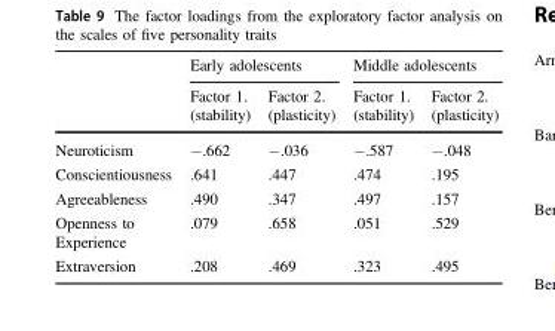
<table><thead><tr><td rowspan="2"></td><td colspan="2">Early adolescents</td><td colspan="2">Middle adolescents</td></tr><tr><td>Factor 1. (stability)</td><td>Factor 2. (plasticity)</td><td>Factor 1. (stability)</td><td>Factor 2. (plasticity)</td></tr></thead><tbody><tr><td>Neuroticism</td><td>−.662</td><td>−.036</td><td>−.587</td><td>−.048</td></tr><tr><td>Conscientiousness</td><td>.641</td><td>.447</td><td>.474</td><td>.195</td></tr><tr><td>Agreeableness</td><td>.490</td><td>.347</td><td>.497</td><td>.157</td></tr><tr><td>Openness to Experience</td><td>.079</td><td>.658</td><td>.051</td><td>.529</td></tr><tr><td>Extraversion</td><td>.208</td><td>.469</td><td>.323</td><td>.495</td></tr></tbody></table>